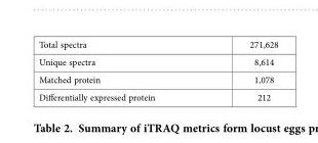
<table><tbody><tr><td>Total spectra</td><td>271,628</td></tr><tr><td>Unique spectra</td><td>8,614</td></tr><tr><td>Matched protein</td><td>1,078</td></tr><tr><td>Differentially expressed protein</td><td>212</td></tr></tbody></table>